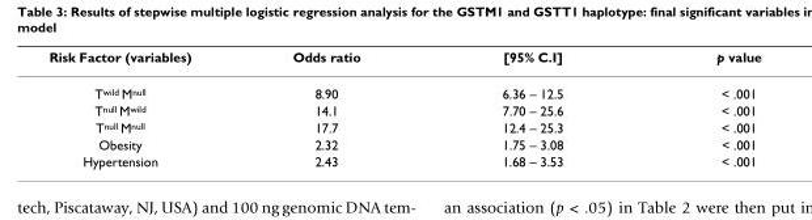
<table><thead><tr><td>Risk Factor (variables)</td><td>Odds ratio</td><td>[95% C.I]</td><td>p value</td></tr></thead><tbody><tr><td>T<sup>wild</sup> M<sup>null</sup></td><td>8.90</td><td>6.36 – 12.5</td><td>&lt; .001</td></tr><tr><td>T<sup>null</sup> M<sup>wild</sup></td><td>14.1</td><td>7.70 – 25.6</td><td>&lt; .001</td></tr><tr><td>T<sup>null</sup> M<sup>null</sup></td><td>17.7</td><td>12.4 – 25.3</td><td>&lt; .001</td></tr><tr><td>Obesity</td><td>2.32</td><td>1.75 – 3.08</td><td>&lt; .001</td></tr><tr><td>Hypertension</td><td>2.43</td><td>1.68 – 3.53</td><td>&lt; .001</td></tr></tbody></table>